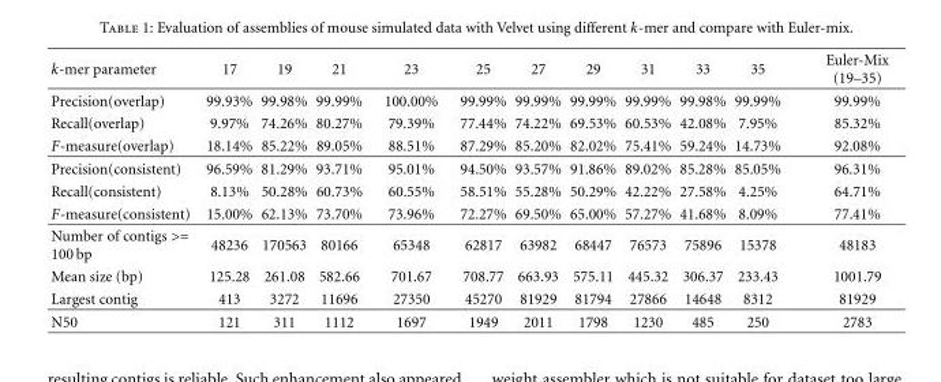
<table><thead><tr><td>k-mer parameter</td><td>17</td><td>19</td><td>21</td><td>23</td><td>25</td><td>27</td><td>29</td><td>31</td><td>33</td><td>35</td><td>Euler-Mix (19–35)</td></tr></thead><tbody><tr><td>Precision(overlap)</td><td>99.93%</td><td>99.98%</td><td>99.99%</td><td>100.00%</td><td>99.99%</td><td>99.99%</td><td>99.99%</td><td>99.99%</td><td>99.98%</td><td>99.99%</td><td>99.99%</td></tr><tr><td>Recall(overlap)</td><td>9.97%</td><td>74.26%</td><td>80.27%</td><td>79.39%</td><td>77.44%</td><td>74.22%</td><td>69.53%</td><td>60.53%</td><td>42.08%</td><td>7.95%</td><td>85.32%</td></tr><tr><td>F-measure(overlap)</td><td>18.14%</td><td>85.22%</td><td>89.05%</td><td>88.51%</td><td>87.29%</td><td>85.20%</td><td>82.02%</td><td>75.41%</td><td>59.24%</td><td>14.73%</td><td>92.08%</td></tr><tr><td>Precision(consistent)</td><td>96.59%</td><td>81.29%</td><td>93.71%</td><td>95.01%</td><td>94.50%</td><td>93.57%</td><td>91.86%</td><td>89.02%</td><td>85.28%</td><td>85.05%</td><td>96.31%</td></tr><tr><td>Recall(consistent)</td><td>8.13%</td><td>50.28%</td><td>60.73%</td><td>60.55%</td><td>58.51%</td><td>55.28%</td><td>50.29%</td><td>42.22%</td><td>27.58%</td><td>4.25%</td><td>64.71%</td></tr><tr><td>F-measure(consistent)</td><td>15.00%</td><td>62.13%</td><td>73.70%</td><td>73.96%</td><td>72.27%</td><td>69.50%</td><td>65.00%</td><td>57.27%</td><td>41.68%</td><td>8.09%</td><td>77.41%</td></tr><tr><td>Number of contigs &gt;= 100 bp</td><td>48236</td><td>170563</td><td>80166</td><td>65348</td><td>62817</td><td>63982</td><td>68447</td><td>76573</td><td>75896</td><td>15378</td><td>48183</td></tr><tr><td>Mean size (bp)</td><td>125.28</td><td>261.08</td><td>582.66</td><td>701.67</td><td>708.77</td><td>663.93</td><td>575.11</td><td>445.32</td><td>306.37</td><td>233.43</td><td>1001.79</td></tr><tr><td>Largest contig</td><td>413</td><td>3272</td><td>11696</td><td>27350</td><td>45270</td><td>81929</td><td>81794</td><td>27866</td><td>14648</td><td>8312</td><td>81929</td></tr><tr><td>N50</td><td>121</td><td>311</td><td>1112</td><td>1697</td><td>1949</td><td>2011</td><td>1798</td><td>1230</td><td>485</td><td>250</td><td>2783</td></tr></tbody></table>